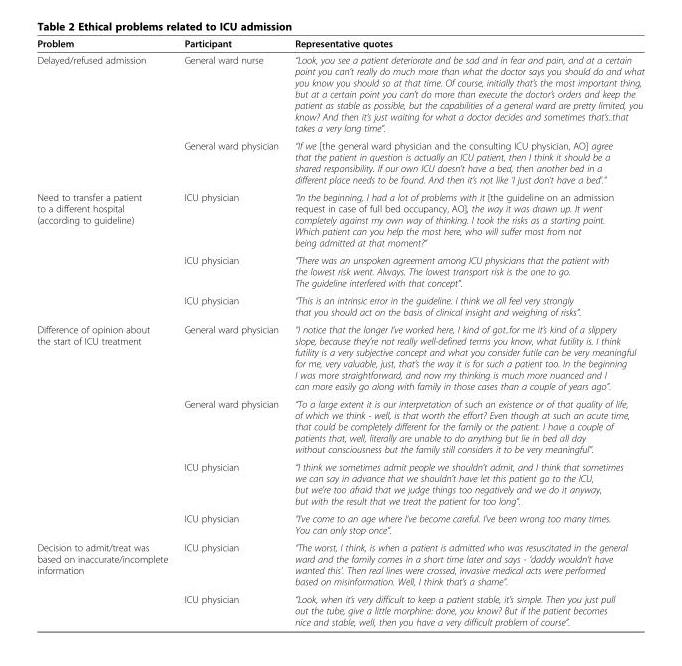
<table><thead><tr><td>Problem</td><td>Participant</td><td>Representative quotes</td></tr></thead><tbody><tr><td rowspan="2">Delayed/refused admission</td><td>General ward nurse</td><td>“Look, you see a patient deteriorate and be sad and in fear and pain, and at a certain point you can’t really do much more than what the doctor says you should do and what you know you should so at that time. Of course, initially that’s the most important thing, but at a certain point you can’t do more than execute the doctor’s orders and keep the patient as stable as possible, but the capabilities of a general ward are pretty limited, you know? And then it’s just waiting for what a doctor decides and sometimes that’s..that takes a very long time”.</td></tr><tr><td>General ward physician</td><td>“If we [the general ward physician and the consulting ICU physician, AO] agree that the patient in question is actually an ICU patient, then I think it should be a shared responsibility. If our own ICU doesn’t have a bed, then another bed in a different place needs to be found. And then it’s not like ‘I just don’t have a bed’.”</td></tr><tr><td rowspan="3">Need to transfer a patient to a different hospital (according to guideline)</td><td>ICU physician</td><td>“In the beginning, I had a lot of problems with it [the guideline on an admission request in case of full bed occupancy, AO], the way it was drawn up. It went completely against my own way of thinking. I took the risks as a starting point. Which patient can you help the most here, who will suffer most from not being admitted at that moment?”</td></tr><tr><td>ICU physician</td><td>“There was an unspoken agreement among ICU physicians that the patient with the lowest risk went. Always. The lowest transport risk is the one to go. The guideline interfered with that concept”.</td></tr><tr><td>ICU physician</td><td>“This is an intrinsic error in the guideline. I think we all feel very strongly that you should act on the basis of clinical insight and weighing of risks”.</td></tr><tr><td rowspan="4">Difference of opinion about the start of ICU treatment</td><td>General ward physician</td><td>“I notice that the longer I’ve worked here, I kind of got..for me it’s kind of a slippery slope, because they’re not really well-defined terms you know, what futility is. I think futility is a very subjective concept and what you consider futile can be very meaningful for me, very valuable, just, that’s the way it is for such a patient too. In the beginning I was more straightforward, and now my thinking is much more nuanced and I can more easily go along with family in those cases than a couple of years ago”.</td></tr><tr><td>General ward physician</td><td>“To a large extent it is our interpretation of such an existence or of that quality of life, of which we think - well, is that worth the effort? Even though at such an acute time, that could be completely different for the family or the patient. I have a couple of patients that, well, literally are unable to do anything but lie in bed all day without consciousness but the family still considers it to be very meaningful”.</td></tr><tr><td>ICU physician</td><td>“I think we sometimes admit people we shouldn’t admit, and I think that sometimes we can say in advance that we shouldn’t have let this patient go to the ICU, but we’re too afraid that we judge things too negatively and we do it anyway, but with the result that we treat the patient for too long”.</td></tr><tr><td>ICU physician</td><td>“I’ve come to an age where I’ve become careful. I’ve been wrong too many times. You can only stop once”.</td></tr><tr><td rowspan="2">Decision to admit/treat was based on inaccurate/incomplete information</td><td>ICU physician</td><td>“The worst, I think, is when a patient is admitted who was resuscitated in the general ward and the family comes in a short time later and says - ‘daddy wouldn’t have wanted this’. Then real lines were crossed, invasive medical acts were performed based on misinformation. Well, I think that’s a shame”.</td></tr><tr><td>ICU physician</td><td>“Look, when it’s very difficult to keep a patient stable, it’s simple. Then you just pull out the tube, give a little morphine: done, you know? But if the patient becomes nice and stable, well, then you have a very difficult problem of course”.</td></tr></tbody></table>